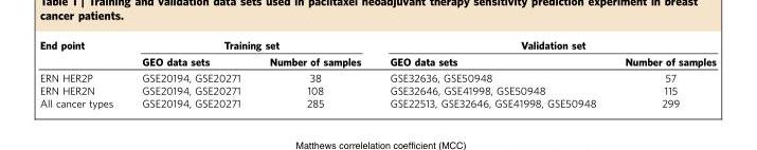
<table><thead><tr><td rowspan="2">End point</td><td colspan="2">Training set</td><td colspan="2">Validation set</td></tr><tr><td>GEO data sets</td><td>Number of samples</td><td>GEO data sets</td><td>Number of samples</td></tr></thead><tbody><tr><td>ERN HER2P</td><td>GSE20194, GSE20271</td><td>38</td><td>GSE32636, GSE50948</td><td>57</td></tr><tr><td>ERN HER2N</td><td>GSE20194, GSE20271</td><td>108</td><td>GSE32646, GSE41998, GSE50948</td><td>115</td></tr><tr><td>All cancer types</td><td>GSE20194, GSE20271</td><td>285</td><td>GSE22513, GSE32646, GSE41998, GSE50948</td><td>299</td></tr></tbody></table>